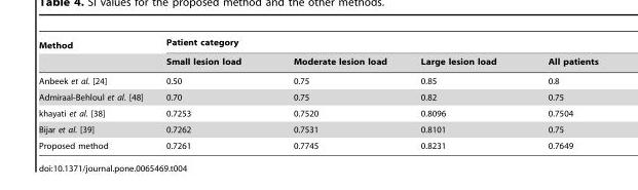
<table><thead><tr><td rowspan="2">Method</td><td colspan="4">Patient category</td></tr><tr><td>Small lesion load</td><td>Moderate lesion load</td><td>Large lesion load</td><td>All patients</td></tr></thead><tbody><tr><td>Anbeek et al. [24]</td><td>0.50</td><td>0.75</td><td>0.85</td><td>0.8</td></tr><tr><td>Admiraal-Behloul et al. [48]</td><td>0.70</td><td>0.75</td><td>0.82</td><td>0.75</td></tr><tr><td>khayati et al. [38]</td><td>0.7253</td><td>0.7520</td><td>0.8096</td><td>0.7504</td></tr><tr><td>Bijar et al. [39]</td><td>0.7262</td><td>0.7531</td><td>0.8101</td><td>0.75</td></tr><tr><td>Proposed method</td><td>0.7261</td><td>0.7745</td><td>0.8231</td><td>0.7649</td></tr></tbody></table>